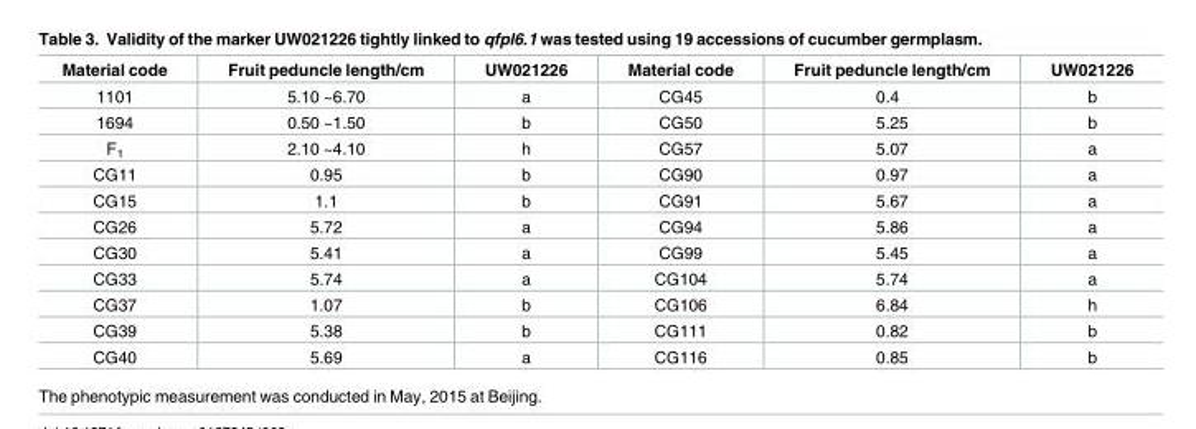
<table><thead><tr><td>Material code</td><td>Fruit peduncle length/cm</td><td>UW021226</td><td>Material code</td><td>Fruit peduncle length/cm</td><td>UW021226</td></tr></thead><tbody><tr><td>1101</td><td>5.10 ~6.70</td><td>a</td><td>CG45</td><td>0.4</td><td>b</td></tr><tr><td>1694</td><td>0.50 ~1.50</td><td>b</td><td>CG50</td><td>5.25</td><td>b</td></tr><tr><td>F<sub>1</sub></td><td>2.10 ~4.10</td><td>h</td><td>CG57</td><td>5.07</td><td>a</td></tr><tr><td>CG11</td><td>0.95</td><td>b</td><td>CG90</td><td>0.97</td><td>a</td></tr><tr><td>CG15</td><td>1.1</td><td>b</td><td>CG91</td><td>5.67</td><td>a</td></tr><tr><td>CG26</td><td>5.72</td><td>a</td><td>CG94</td><td>5.86</td><td>a</td></tr><tr><td>CG30</td><td>5.41</td><td>a</td><td>CG99</td><td>5.45</td><td>a</td></tr><tr><td>CG33</td><td>5.74</td><td>a</td><td>CG104</td><td>5.74</td><td>a</td></tr><tr><td>CG37</td><td>1.07</td><td>b</td><td>CG106</td><td>6.84</td><td>h</td></tr><tr><td>CG39</td><td>5.38</td><td>b</td><td>CG111</td><td>0.82</td><td>b</td></tr><tr><td>CG40</td><td>5.69</td><td>a</td><td>CG116</td><td>0.85</td><td>b</td></tr></tbody></table>